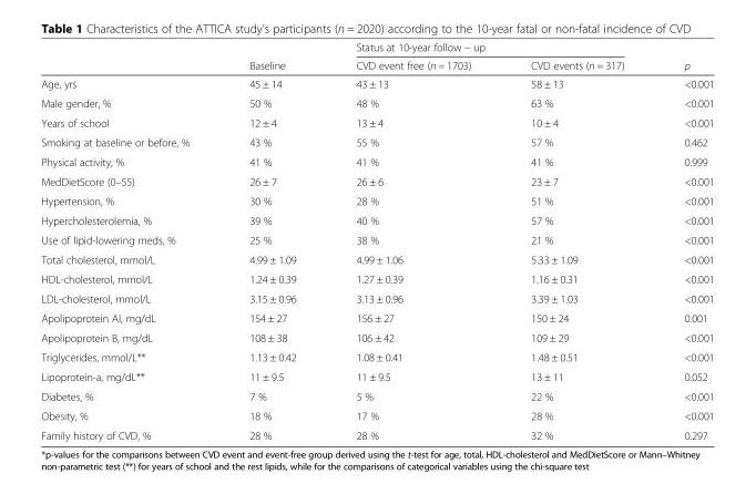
<table><thead><tr><td rowspan="2"></td><td rowspan="2">Baseline</td><td colspan="2">Status at 10-year follow – up</td><td rowspan="2">p</td></tr><tr><td>CVD event free (n = 1703)</td><td>CVD events (n = 317)</td></tr></thead><tbody><tr><td>Age, yrs</td><td>45 ± 14</td><td>43 ± 13</td><td>58 ± 13</td><td>&lt;0.001</td></tr><tr><td>Male gender, %</td><td>50 %</td><td>48 %</td><td>63 %</td><td>&lt;0.001</td></tr><tr><td>Years of school</td><td>12 ± 4</td><td>13 ± 4</td><td>10 ± 4</td><td>&lt;0.001</td></tr><tr><td>Smoking at baseline or before, %</td><td>43 %</td><td>55 %</td><td>57 %</td><td>0.462</td></tr><tr><td>Physical activity, %</td><td>41 %</td><td>41 %</td><td>41 %</td><td>0.999</td></tr><tr><td>MedDietScore (0–55)</td><td>26 ± 7</td><td>26 ± 6</td><td>23 ± 7</td><td>&lt;0.001</td></tr><tr><td>Hypertension, %</td><td>30 %</td><td>28 %</td><td>51 %</td><td>&lt;0.001</td></tr><tr><td>Hypercholesterolemia, %</td><td>39 %</td><td>40 %</td><td>57 %</td><td>&lt;0.001</td></tr><tr><td>Use of lipid-lowering meds, %</td><td>25 %</td><td>38 %</td><td>21 %</td><td>&lt;0.001</td></tr><tr><td>Total cholesterol, mmol/L</td><td>4.99 ± 1.09</td><td>4.99 ± 1.06</td><td>5.33 ± 1.09</td><td>&lt;0.001</td></tr><tr><td>HDL-cholesterol, mmol/L</td><td>1.24 ± 0.39</td><td>1.27 ± 0.39</td><td>1.16 ± 0.31</td><td>&lt;0.001</td></tr><tr><td>LDL-cholesterol, mmol/L</td><td>3.15 ± 0.96</td><td>3.13 ± 0.96</td><td>3.39 ± 1.03</td><td>&lt;0.001</td></tr><tr><td>Apolipoprotein AI, mg/dL</td><td>154 ± 27</td><td>156 ± 27</td><td>150 ± 24</td><td>0.001</td></tr><tr><td>Apolipoprotein B, mg/dL</td><td>108 ± 38</td><td>106 ± 42</td><td>109 ± 29</td><td>&lt;0.001</td></tr><tr><td>Triglycerides, mmol/L**</td><td>1.13 ± 0.42</td><td>1.08 ± 0.41</td><td>1.48 ± 0.51</td><td>&lt;0.001</td></tr><tr><td>Lipoprotein-a, mg/dL**</td><td>11 ± 9.5</td><td>11 ± 9.5</td><td>13 ± 11</td><td>0.052</td></tr><tr><td>Diabetes, %</td><td>7 %</td><td>5 %</td><td>22 %</td><td>&lt;0.001</td></tr><tr><td>Obesity, %</td><td>18 %</td><td>17 %</td><td>28 %</td><td>&lt;0.001</td></tr><tr><td>Family history of CVD, %</td><td>28 %</td><td>28 %</td><td>32 %</td><td>0.297</td></tr></tbody></table>